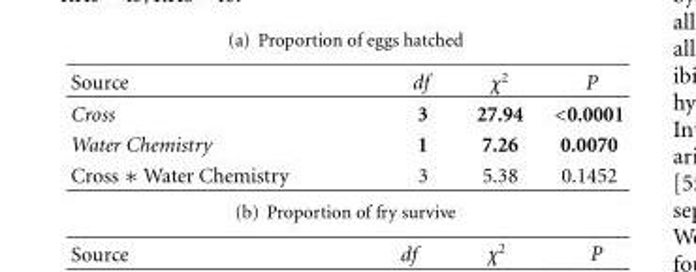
<table><thead><tr><td>Source</td><td>df</td><td>χ<sup>2</sup></td><td>P</td></tr></thead><tbody><tr><td>Cross</td><td>3</td><td>27.94</td><td>&lt;0.0001</td></tr><tr><td>Water Chemistry</td><td>1</td><td>7.26</td><td>0.0070</td></tr><tr><td>Cross ∗ Water Chemistry</td><td>3</td><td>5.38</td><td>0.1452</td></tr></tbody></table>